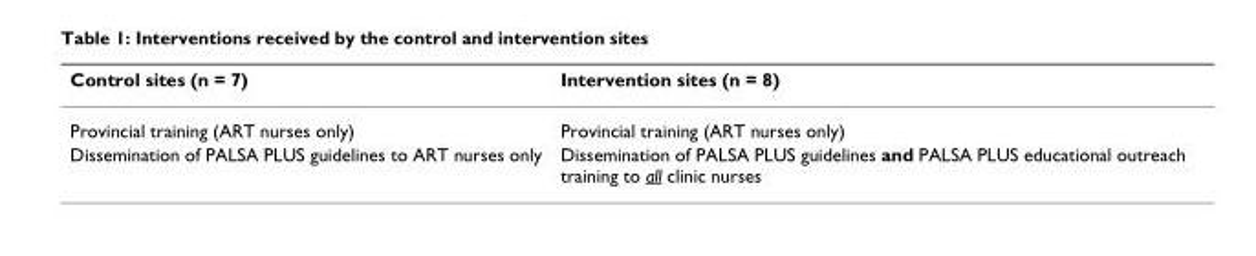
<table><thead><tr><td>Control sites (n = 7)</td><td>Intervention sites (n = 8)</td></tr></thead><tbody><tr><td>Provincial training (ART nurses only)</td><td>Provincial training (ART nurses only)</td></tr><tr><td>Dissemination of PALSA PLUS guidelines to ART nurses only</td><td>Dissemination of PALSA PLUS guidelines and PALSA PLUS educational outreach training to all clinic nurses</td></tr></tbody></table>